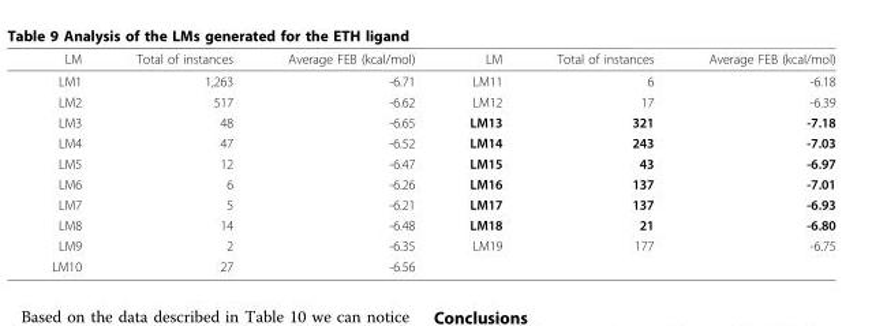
<table><thead><tr><td>LM</td><td>Total of instances</td><td>Average FEB (kcal/mol)</td><td>LM</td><td>Total of instances</td><td>Average FEB (kcal/mol)</td></tr></thead><tbody><tr><td>LM1</td><td>1,263</td><td>-6.71</td><td>LM11</td><td>6</td><td>-6.18</td></tr><tr><td>LM2</td><td>517</td><td>-6.62</td><td>LM12</td><td>17</td><td>-6.39</td></tr><tr><td>LM3</td><td>48</td><td>-6.65</td><td>LM13</td><td>321</td><td>-7.18</td></tr><tr><td>LM4</td><td>47</td><td>-6.52</td><td>LM14</td><td>243</td><td>-7.03</td></tr><tr><td>LM5</td><td>12</td><td>-6.47</td><td>LM15</td><td>43</td><td>-6.97</td></tr><tr><td>LM6</td><td>6</td><td>-6.26</td><td>LM16</td><td>137</td><td>-7.01</td></tr><tr><td>LM7</td><td>5</td><td>-6.21</td><td>LM17</td><td>137</td><td>-6.93</td></tr><tr><td>LM8</td><td>14</td><td>-6.48</td><td>LM18</td><td>21</td><td>-6.80</td></tr><tr><td>LM9</td><td>2</td><td>-6.35</td><td>LM19</td><td>177</td><td>-6.75</td></tr><tr><td>LM10</td><td>27</td><td>-6.56</td><td></td><td></td><td></td></tr></tbody></table>